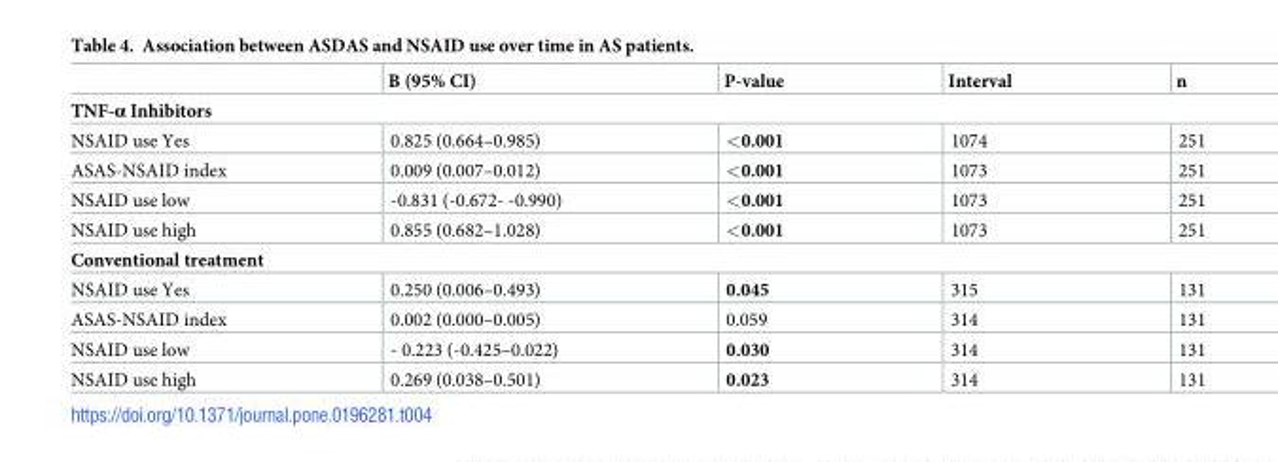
<table><thead><tr><td></td><td>B (95% CI)</td><td>P-value</td><td>Interval</td><td>n</td></tr></thead><tbody><tr><td colspan="5">TNF-α Inhibitors</td></tr><tr><td>NSAID use Yes</td><td>0.825 (0.664–0.985)</td><td>&lt;0.001</td><td>1074</td><td>251</td></tr><tr><td>ASAS-NSAID index</td><td>0.009 (0.007–0.012)</td><td>&lt;0.001</td><td>1073</td><td>251</td></tr><tr><td>NSAID use low</td><td>-0.831 (-0.672- -0.990)</td><td>&lt;0.001</td><td>1073</td><td>251</td></tr><tr><td>NSAID use high</td><td>0.855 (0.682–1.028)</td><td>&lt;0.001</td><td>1073</td><td>251</td></tr><tr><td colspan="5">Conventional treatment</td></tr><tr><td>NSAID use Yes</td><td>0.250 (0.006–0.493)</td><td>0.045</td><td>315</td><td>131</td></tr><tr><td>ASAS-NSAID index</td><td>0.002 (0.000–0.005)</td><td>0.059</td><td>314</td><td>131</td></tr><tr><td>NSAID use low</td><td>- 0.223 (-0.425–0.022)</td><td>0.030</td><td>314</td><td>131</td></tr><tr><td>NSAID use high</td><td>0.269 (0.038–0.501)</td><td>0.023</td><td>314</td><td>131</td></tr></tbody></table>